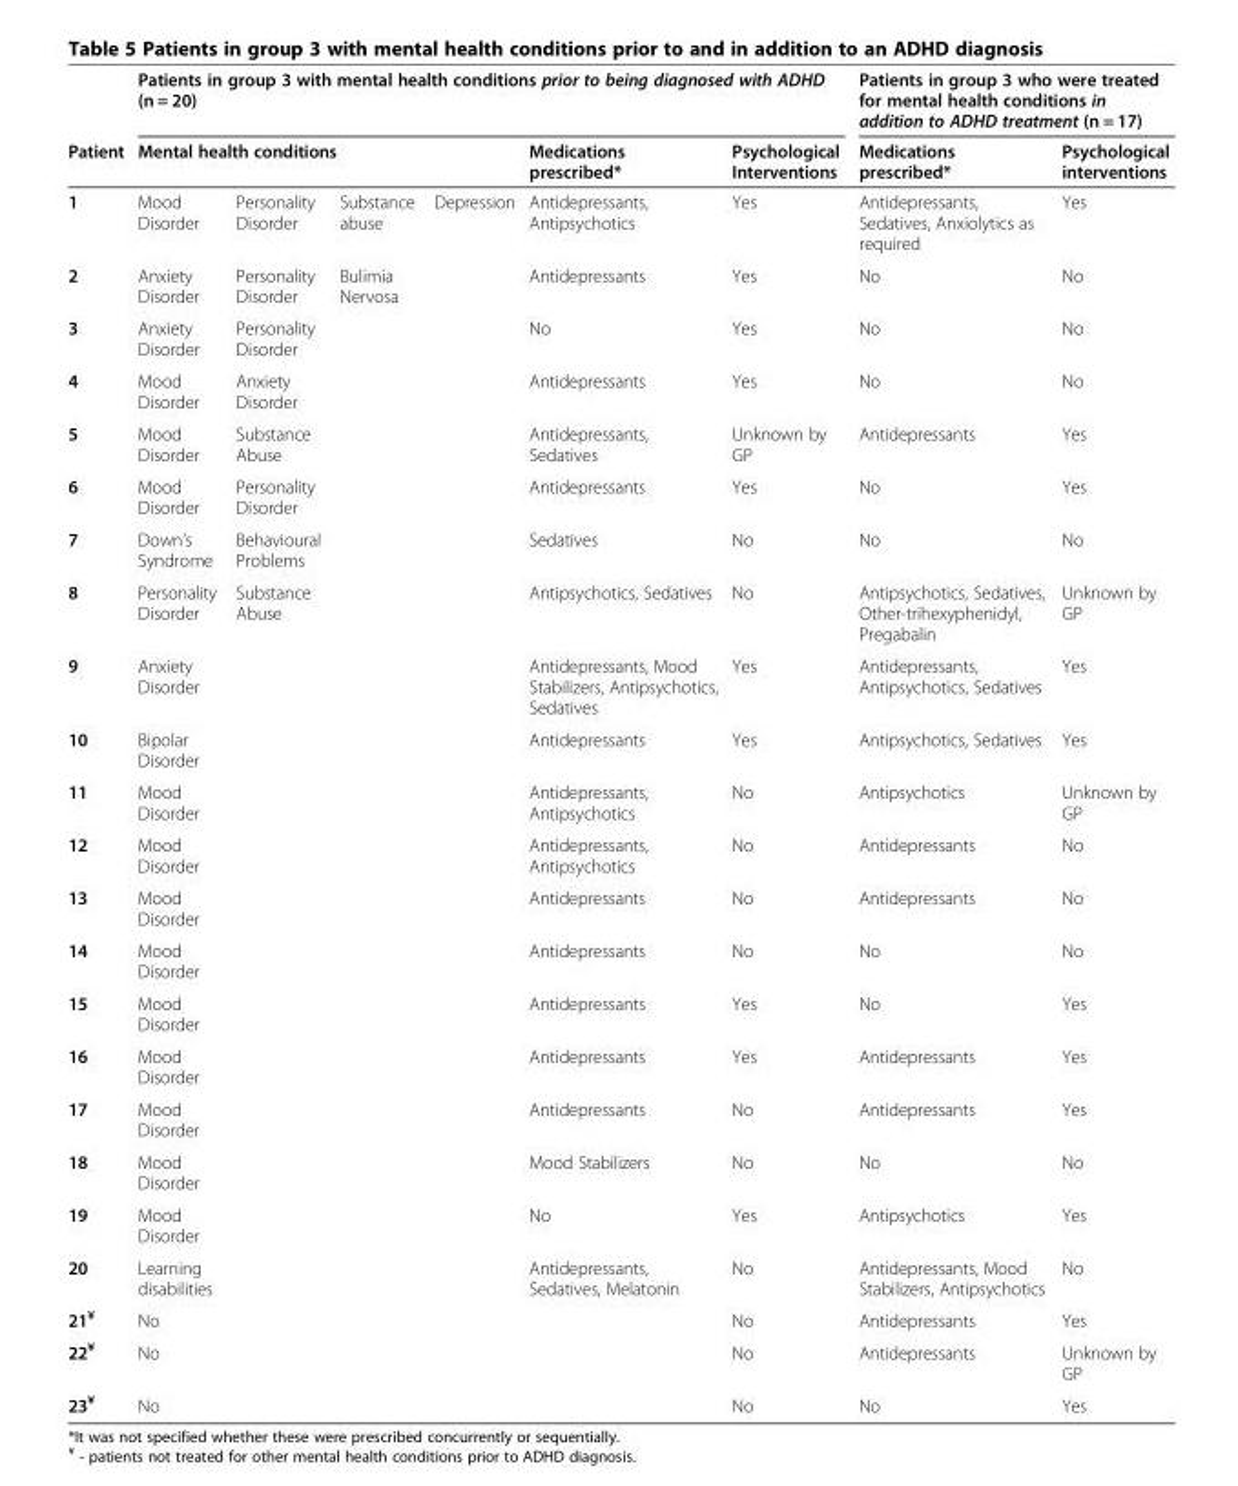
<table><thead><tr><td rowspan="3">Patient 1</td><td colspan="6">Patients in group 3 with mental health conditions prior to being diagnosed with ADHD (n = 20)</td><td colspan="2">Patients in group 3 who were treated for mental health conditions in addition to ADHD treatment (n = 17)</td></tr><tr><td colspan="4">Mental health conditions</td><td rowspan="2">Medications prescribed* Antidepressants, Antipsychotics</td><td rowspan="2">Psychological Interventions Yes</td><td rowspan="2">Medications prescribed* Antidepressants, Sedatives, Anxiolytics as required</td><td rowspan="2">Psychological interventions Yes</td></tr><tr><td>Mood Disorder</td><td>Personality Disorder</td><td>Substance abuse</td><td>Depression</td></tr></thead><tbody><tr><td>2</td><td>Anxiety Disorder</td><td>Personality Disorder</td><td>Bulimia Nervosa</td><td></td><td>Antidepressants</td><td>Yes</td><td>No</td><td>No</td></tr><tr><td>3</td><td>Anxiety Disorder</td><td>Personality Disorder</td><td></td><td></td><td>No</td><td>Yes</td><td>No</td><td>No</td></tr><tr><td>4</td><td>Mood Disorder</td><td>Anxiety Disorder</td><td></td><td></td><td>Antidepressants</td><td>Yes</td><td>No</td><td>No</td></tr><tr><td>5</td><td>Mood Disorder</td><td>Substance Abuse</td><td></td><td></td><td>Antidepressants, Sedatives</td><td>Unknown by GP</td><td>Antidepressants</td><td>Yes</td></tr><tr><td>6</td><td>Mood Disorder</td><td>Personality Disorder</td><td></td><td></td><td>Antidepressants</td><td>Yes</td><td>No</td><td>Yes</td></tr><tr><td>7</td><td>Down’s Syndrome</td><td>Behavioural Problems</td><td></td><td></td><td>Sedatives</td><td>No</td><td>No</td><td>No</td></tr><tr><td>8</td><td>Personality Disorder</td><td>Substance Abuse</td><td></td><td></td><td>Antipsychotics, Sedatives</td><td>No</td><td>Antipsychotics, Sedatives, Other-trihexyphenidyl, Pregabalin</td><td>Unknown by GP</td></tr><tr><td>9</td><td>Anxiety Disorder</td><td></td><td></td><td></td><td>Antidepressants, Mood Stabilizers, Antipsychotics, Sedatives</td><td>Yes</td><td>Antidepressants, Antipsychotics, Sedatives</td><td>Yes</td></tr><tr><td>10</td><td>Bipolar Disorder</td><td></td><td></td><td></td><td>Antidepressants</td><td>Yes</td><td>Antipsychotics, Sedatives</td><td>Yes</td></tr><tr><td>11</td><td>Mood Disorder</td><td></td><td></td><td></td><td>Antidepressants, Antipsychotics</td><td>No</td><td>Antipsychotics</td><td>Unknown by GP</td></tr><tr><td>12</td><td>Mood Disorder</td><td></td><td></td><td></td><td>Antidepressants, Antipsychotics</td><td>No</td><td>Antidepressants</td><td>No</td></tr><tr><td>13</td><td>Mood Disorder</td><td></td><td></td><td></td><td>Antidepressants</td><td>No</td><td>Antidepressants</td><td>No</td></tr><tr><td>14</td><td>Mood Disorder</td><td></td><td></td><td></td><td>Antidepressants</td><td>No</td><td>No</td><td>No</td></tr><tr><td>15</td><td>Mood Disorder</td><td></td><td></td><td></td><td>Antidepressants</td><td>Yes</td><td>No</td><td>Yes</td></tr><tr><td>16</td><td>Mood Disorder</td><td></td><td></td><td></td><td>Antidepressants</td><td>Yes</td><td>Antidepressants</td><td>Yes</td></tr><tr><td>17</td><td>Mood Disorder</td><td></td><td></td><td></td><td>Antidepressants</td><td>No</td><td>Antidepressants</td><td>Yes</td></tr><tr><td>18</td><td>Mood Disorder</td><td></td><td></td><td></td><td>Mood Stabilizers</td><td>No</td><td>No</td><td>No</td></tr><tr><td>19</td><td>Mood Disorder</td><td></td><td></td><td></td><td>No</td><td>Yes</td><td>Antipsychotics</td><td>Yes</td></tr><tr><td>20</td><td>Learning disabilities</td><td></td><td></td><td></td><td>Antidepressants, Sedatives, Melatonin</td><td>No</td><td>Antidepressants, Mood Stabilizers, Antipsychotics</td><td>No</td></tr><tr><td>21<sup>¥</sup></td><td>No</td><td></td><td></td><td></td><td></td><td>No</td><td>Antidepressants</td><td>Yes</td></tr><tr><td>22<sup>¥</sup></td><td>No</td><td></td><td></td><td></td><td></td><td>No</td><td>Antidepressants</td><td>Unknown by GP</td></tr><tr><td>23<sup>¥</sup></td><td>No</td><td></td><td></td><td></td><td></td><td>No</td><td>No</td><td>Yes</td></tr></tbody></table>